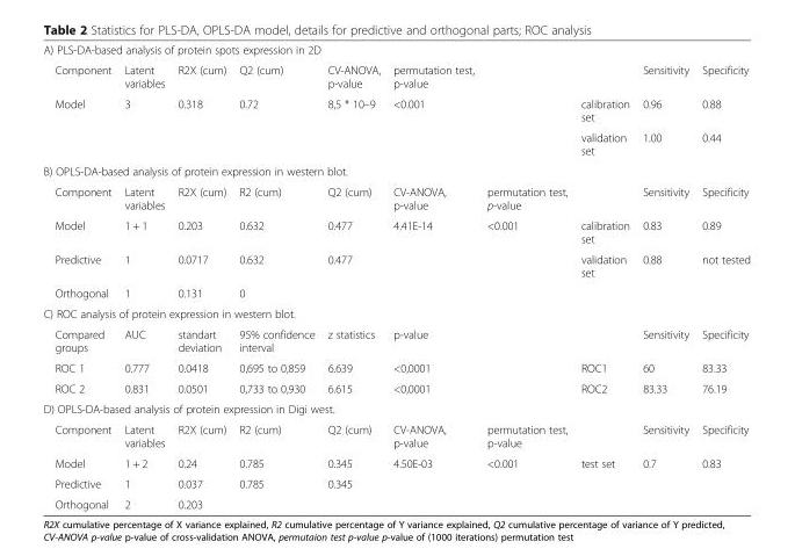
<table><tbody><tr><td colspan="10">A) PLS-DA-based analysis of protein spots expression in 2D</td></tr><tr><td>Component</td><td>Latent variables</td><td>R2X (cum)</td><td>Q2 (cum)</td><td>CV-ANOVA, p-value</td><td>permutation test, p-value</td><td></td><td></td><td>Sensitivity</td><td>Specificity</td></tr><tr><td rowspan="2">Model</td><td>3</td><td>0.318</td><td>0.72</td><td>8,5 * 10–9</td><td>&lt;0.001</td><td></td><td>calibration set</td><td>0.96</td><td>0.88</td></tr><tr><td></td><td></td><td></td><td></td><td></td><td></td><td>validation set</td><td>1.00</td><td>0.44</td></tr><tr><td colspan="10">B) OPLS-DA-based analysis of protein expression in western blot.</td></tr><tr><td>Component</td><td>Latent variables</td><td>R2X (cum)</td><td>R2 (cum)</td><td>Q2 (cum)</td><td>CV-ANOVA, p-value</td><td>permutation test, p-value</td><td></td><td>Sensitivity</td><td>Specificity</td></tr><tr><td>Model</td><td>1 + 1</td><td>0.203</td><td>0.632</td><td>0.477</td><td>4.41E-14</td><td>&lt;0.001</td><td>calibration set</td><td>0.83</td><td>0.89</td></tr><tr><td>Predictive</td><td>1</td><td>0.0717</td><td>0.632</td><td>0.477</td><td></td><td></td><td>validation set</td><td>0.88</td><td>not tested</td></tr><tr><td>Orthogonal</td><td>1</td><td>0.131</td><td>0</td><td></td><td></td><td></td><td></td><td></td><td></td></tr><tr><td colspan="10">C) ROC analysis of protein expression in western blot.</td></tr><tr><td>Compared groups</td><td>AUC</td><td>standart deviation</td><td>95% confidence interval</td><td>z statistics</td><td>p-value</td><td></td><td></td><td>Sensitivity</td><td>Specificity</td></tr><tr><td>ROC 1</td><td>0.777</td><td>0.0418</td><td>0,695 to 0,859</td><td>6.639</td><td>&lt;0,0001</td><td></td><td>ROC1</td><td>60</td><td>83.33</td></tr><tr><td>ROC 2</td><td>0.831</td><td>0.0501</td><td>0,733 to 0,930</td><td>6.615</td><td>&lt;0,0001</td><td></td><td>ROC2</td><td>83.33</td><td>76.19</td></tr><tr><td colspan="10">D) OPLS-DA-based analysis of protein expression in Digi west.</td></tr><tr><td>Component</td><td>Latent variables</td><td>R2X (cum)</td><td>R2 (cum)</td><td>Q2 (cum)</td><td>CV-ANOVA, p-value</td><td>permutation test, p-value</td><td></td><td>Sensitivity</td><td>Specificity</td></tr><tr><td>Model</td><td>1 + 2</td><td>0.24</td><td>0.785</td><td>0.345</td><td>4.50E-03</td><td>&lt;0.001</td><td>test set</td><td>0.7</td><td>0.83</td></tr><tr><td>Predictive</td><td>1</td><td>0.037</td><td>0.785</td><td>0.345</td><td></td><td></td><td></td><td></td><td></td></tr><tr><td>Orthogonal</td><td>2</td><td>0.203</td><td></td><td></td><td></td><td></td><td></td><td></td><td></td></tr></tbody></table>